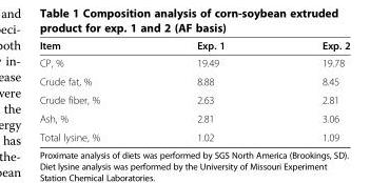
<table><thead><tr><td>Item</td><td>Exp. 1</td><td>Exp. 2</td></tr></thead><tbody><tr><td>CP, %</td><td>19.49</td><td>19.78</td></tr><tr><td>Crude fat, %</td><td>8.88</td><td>8.45</td></tr><tr><td>Crude fiber, %</td><td>2.63</td><td>2.81</td></tr><tr><td>Ash, %</td><td>2.81</td><td>3.06</td></tr><tr><td>Total lysine, %</td><td>1.02</td><td>1.09</td></tr></tbody></table>